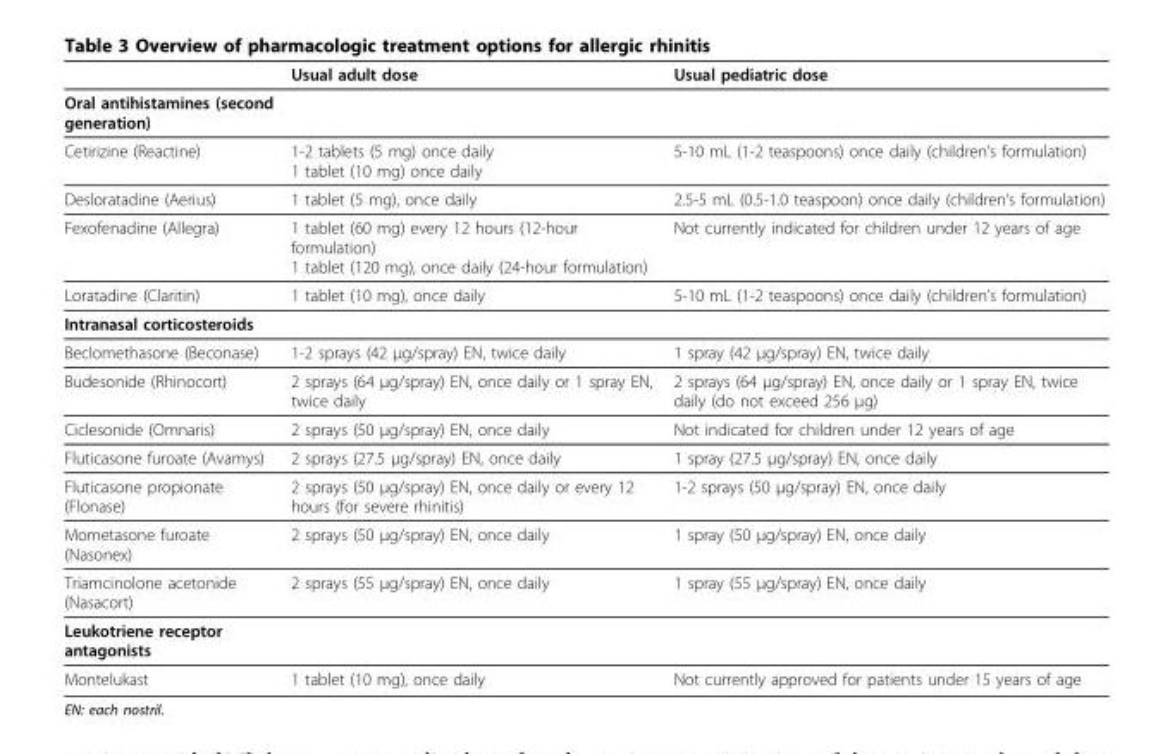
<table><thead><tr><td></td><td>Usual adult dose</td><td>Usual pediatric dose</td></tr></thead><tbody><tr><td colspan="3">Oral antihistamines (second generation)</td></tr><tr><td>Cetirizine (Reactine)</td><td>1-2 tablets (5 mg) once daily 1 tablet (10 mg) once daily</td><td>5-10 mL (1-2 teaspoons) once daily (children’s formulation)</td></tr><tr><td>Desloratadine (Aerius)</td><td>1 tablet (5 mg), once daily</td><td>2.5-5 mL (0.5-1.0 teaspoon) once daily (children’s formulation)</td></tr><tr><td>Fexofenadine (Allegra)</td><td>1 tablet (60 mg) every 12 hours (12-hour formulation) 1 tablet (120 mg), once daily (24-hour formulation)</td><td>Not currently indicated for children under 12 years of age</td></tr><tr><td>Loratadine (Claritin)</td><td>1 tablet (10 mg), once daily</td><td>5-10 mL (1-2 teaspoons) once daily (children’s formulation)</td></tr><tr><td colspan="3">Intranasal corticosteroids</td></tr><tr><td>Beclomethasone (Beconase)</td><td>1-2 sprays (42 µg/spray) EN, twice daily</td><td>1 spray (42 µg/spray) EN, twice daily</td></tr><tr><td>Budesonide (Rhinocort)</td><td>2 sprays (64 μg/spray) EN, once daily or 1 spray EN, twice daily</td><td>2 sprays (64 μg/spray) EN, once daily or 1 spray EN, twice daily (do not exceed 256 μg)</td></tr><tr><td>Ciclesonide (Omnaris)</td><td>2 sprays (50 µg/spray) EN, once daily</td><td>Not indicated for children under 12 years of age</td></tr><tr><td>Fluticasone furoate (Avamys)</td><td>2 sprays (27.5 µg/spray) EN, once daily</td><td>1 spray (27.5 µg/spray) EN, once daily</td></tr><tr><td>Fluticasone propionate (Flonase)</td><td>2 sprays (50 µg/spray) EN, once daily or every 12 hours (for severe rhinitis)</td><td>1-2 sprays (50 µg/spray) EN, once daily</td></tr><tr><td>Mometasone furoate (Nasonex)</td><td>2 sprays (50 µg/spray) EN, once daily</td><td>1 spray (50 µg/spray) EN, once daily</td></tr><tr><td>Triamcinolone acetonide (Nasacort)</td><td>2 sprays (55 µg/spray) EN, once daily</td><td>1 spray (55 µg/spray) EN, once daily</td></tr><tr><td colspan="3">Leukotriene receptor antagonists</td></tr><tr><td>Montelukast</td><td>1 tablet (10 mg), once daily</td><td>Not currently approved for patients under 15 years of age</td></tr></tbody></table>